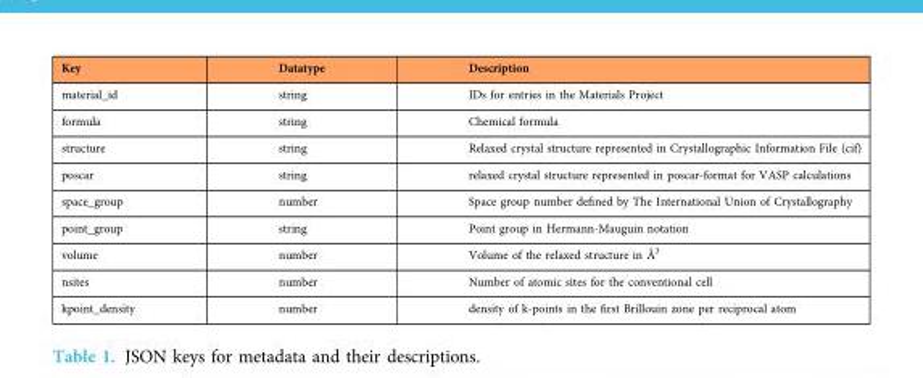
<table><thead><tr><td>Key</td><td>Datatype</td><td>Description</td></tr></thead><tbody><tr><td>material_id</td><td>string</td><td>IDs for entries in the Materials Project</td></tr><tr><td>formula</td><td>string</td><td>Chemical formula</td></tr><tr><td>structure</td><td>string</td><td>Relaxed crystal structure represented in Crystallographic Information File (cif)</td></tr><tr><td>poscar</td><td>string</td><td>relaxed crystal structure represented in poscar-format for VASP calculations</td></tr><tr><td>space_group</td><td>number</td><td>Space group number defined by The International Union of Crystallography</td></tr><tr><td>point_group</td><td>string</td><td>Point group in Hermann-Mauguin notation</td></tr><tr><td>volume</td><td>number</td><td>Volume of the relaxed structure in Å<sup>3</sup></td></tr><tr><td>nsites</td><td>number</td><td>Number of atomic sites for the conventional cell</td></tr><tr><td>kpoint_density</td><td>number</td><td>density of k-points in the first Brillouin zone per reciprocal atom</td></tr></tbody></table>